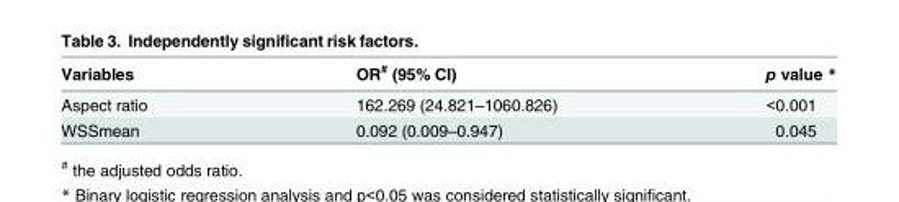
<table><thead><tr><td>Variables</td><td>OR<sup>#</sup> (95% CI)</td><td>p value *</td></tr></thead><tbody><tr><td>Aspect ratio</td><td>162.269 (24.821–1060.826)</td><td>&lt;0.001</td></tr><tr><td>WSSmean</td><td>0.092 (0.009–0.947)</td><td>0.045</td></tr></tbody></table>